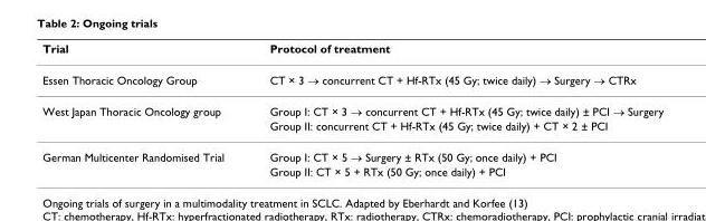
<table><thead><tr><td>Trial</td><td>Protocol of treatment</td></tr></thead><tbody><tr><td>Essen Thoracic Oncology Group</td><td>CT × 3 → concurrent CT + Hf-RTx (45 Gy; twice daily) → Surgery → CTRx</td></tr><tr><td rowspan="2">West Japan Thoracic Oncology group</td><td>Group I: CT × 3 → concurrent CT + Hf-RTx (45 Gy; twice daily) ± PCI → Surgery</td></tr><tr><td>Group II: concurrent CT + Hf-RTx (45 Gy; twice daily) + CT × 2 ± PCI</td></tr><tr><td rowspan="2">German Multicenter Randomised Trial</td><td>Group I: CT × 5 → Surgery ± RTx (50 Gy; once daily) + PCI</td></tr><tr><td>Group II: CT × 5 + RTx (50 Gy; once daily) + PCI</td></tr></tbody></table>